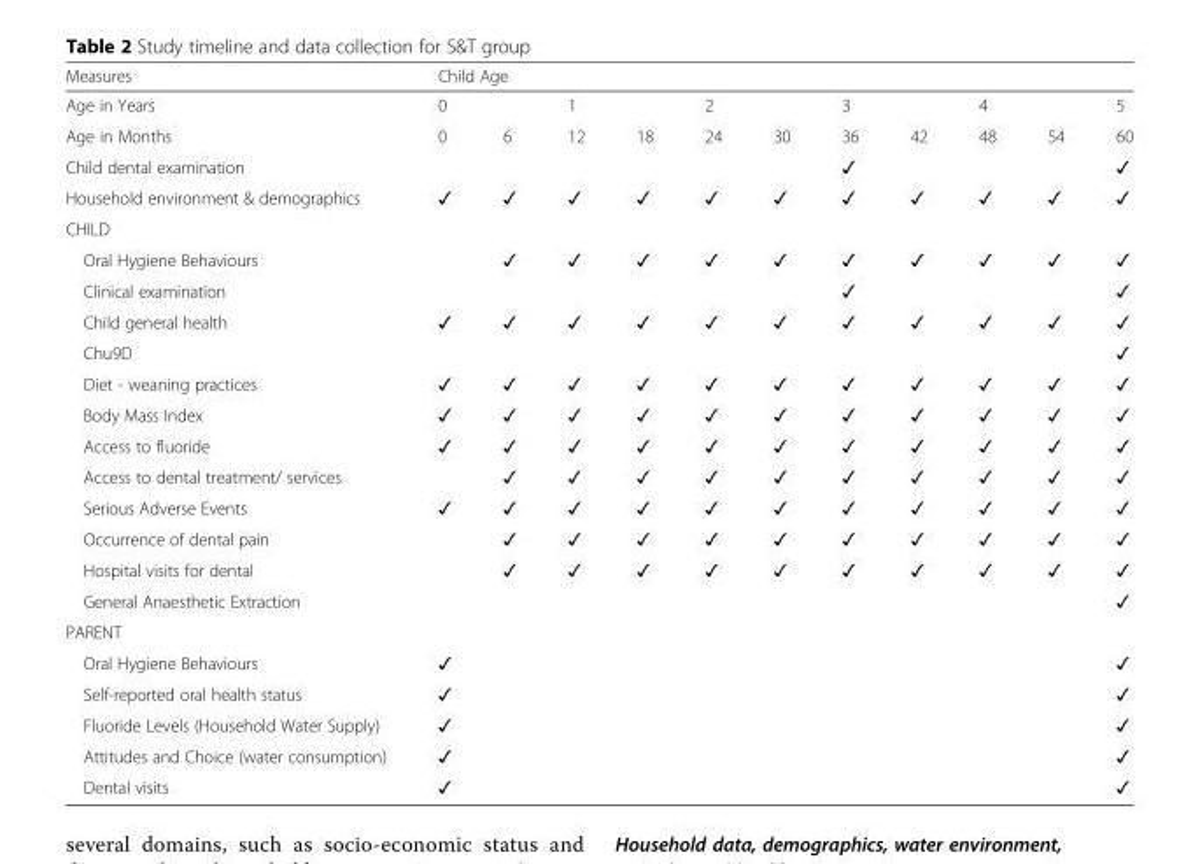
<table><thead><tr><td rowspan="2">Measures Age in Years</td><td colspan="11">Child Age</td></tr><tr><td>0</td><td></td><td>1</td><td></td><td>2</td><td></td><td>3</td><td></td><td>4</td><td></td><td>5</td></tr></thead><tbody><tr><td>Age in Months</td><td>0</td><td>6</td><td>12</td><td>18</td><td>24</td><td>30</td><td>36</td><td>42</td><td>48</td><td>54</td><td>60</td></tr><tr><td>Child dental examination</td><td></td><td></td><td></td><td></td><td></td><td></td><td>✓</td><td></td><td></td><td></td><td>✓</td></tr><tr><td>Household environment &amp; demographics</td><td>✓</td><td>✓</td><td>✓</td><td>✓</td><td>✓</td><td>✓</td><td>✓</td><td>✓</td><td>✓</td><td>✓</td><td>✓</td></tr><tr><td colspan="12">CHILD</td></tr><tr><td>Oral Hygiene Behaviours</td><td></td><td>✓</td><td>✓</td><td>✓</td><td>✓</td><td>✓</td><td>✓</td><td>✓</td><td>✓</td><td>✓</td><td>✓</td></tr><tr><td>Clinical examination</td><td></td><td></td><td></td><td></td><td></td><td></td><td>✓</td><td></td><td></td><td></td><td>✓</td></tr><tr><td>Child general health</td><td>✓</td><td>✓</td><td>✓</td><td>✓</td><td>✓</td><td>✓</td><td>✓</td><td>✓</td><td>✓</td><td>✓</td><td>✓</td></tr><tr><td>Chu9D</td><td></td><td></td><td></td><td></td><td></td><td></td><td></td><td></td><td></td><td></td><td>✓</td></tr><tr><td>Diet - weaning practices</td><td>✓</td><td>✓</td><td>✓</td><td>✓</td><td>✓</td><td>✓</td><td>✓</td><td>✓</td><td>✓</td><td>✓</td><td>✓</td></tr><tr><td>Body Mass Index</td><td>✓</td><td>✓</td><td>✓</td><td>✓</td><td>✓</td><td>✓</td><td>✓</td><td>✓</td><td>✓</td><td>✓</td><td>✓</td></tr><tr><td>Access to fluoride</td><td>✓</td><td>✓</td><td>✓</td><td>✓</td><td>✓</td><td>✓</td><td>✓</td><td>✓</td><td>✓</td><td>✓</td><td>✓</td></tr><tr><td>Access to dental treatment/ services</td><td></td><td>✓</td><td>✓</td><td>✓</td><td>✓</td><td>✓</td><td>✓</td><td>✓</td><td>✓</td><td>✓</td><td>✓</td></tr><tr><td>Serious Adverse Events</td><td>✓</td><td>✓</td><td>✓</td><td>✓</td><td>✓</td><td>✓</td><td>✓</td><td>✓</td><td>✓</td><td>✓</td><td>✓</td></tr><tr><td>Occurrence of dental pain</td><td></td><td>✓</td><td>✓</td><td>✓</td><td>✓</td><td>✓</td><td>✓</td><td>✓</td><td>✓</td><td>✓</td><td>✓</td></tr><tr><td>Hospital visits for dental</td><td></td><td>✓</td><td>✓</td><td>✓</td><td>✓</td><td>✓</td><td>✓</td><td>✓</td><td>✓</td><td>✓</td><td>✓</td></tr><tr><td>General Anaesthetic Extraction</td><td></td><td></td><td></td><td></td><td></td><td></td><td></td><td></td><td></td><td></td><td>✓</td></tr><tr><td colspan="12">PARENT</td></tr><tr><td>Oral Hygiene Behaviours</td><td>✓</td><td></td><td></td><td></td><td></td><td></td><td></td><td></td><td></td><td></td><td>✓</td></tr><tr><td>Self-reported oral health status</td><td>✓</td><td></td><td></td><td></td><td></td><td></td><td></td><td></td><td></td><td></td><td>✓</td></tr><tr><td>Fluoride Levels (Household Water Supply)</td><td>✓</td><td></td><td></td><td></td><td></td><td></td><td></td><td></td><td></td><td></td><td>✓</td></tr><tr><td>Attitudes and Choice (water consumption)</td><td>✓</td><td></td><td></td><td></td><td></td><td></td><td></td><td></td><td></td><td></td><td>✓</td></tr><tr><td>Dental visits</td><td>✓</td><td></td><td></td><td></td><td></td><td></td><td></td><td></td><td></td><td></td><td>✓</td></tr></tbody></table>